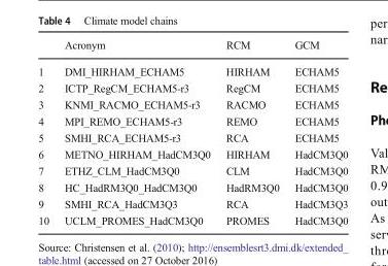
<table><thead><tr><td></td><td>Acronym</td><td>RCM</td><td>GCM</td></tr></thead><tbody><tr><td>1</td><td>DMI_HIRHAM_ECHAM5</td><td>HIRHAM</td><td>ECHAM5</td></tr><tr><td>2</td><td>ICTP_RegCM_ECHAM5-r3</td><td>RegCM</td><td>ECHAM5</td></tr><tr><td>3</td><td>KNMI_RACMO_ECHAM5-r3</td><td>RACMO</td><td>ECHAM5</td></tr><tr><td>4</td><td>MPI_REMO_ECHAM5-r3</td><td>REMO</td><td>ECHAM5</td></tr><tr><td>5</td><td>SMHI_RCA_ECHAM5-r3</td><td>RCA</td><td>ECHAM5</td></tr><tr><td>6</td><td>METNO_HIRHAM_HadCM3Q0</td><td>HIRHAM</td><td>HadCM3Q0</td></tr><tr><td>7</td><td>ETHZ_CLM_HadCM3Q0</td><td>CLM</td><td>HadCM3Q0</td></tr><tr><td>8</td><td>HC_HadRM3Q0_HadCM3Q0</td><td>HadRM3Q0</td><td>HadCM3Q0</td></tr><tr><td>9</td><td>SMHI_RCA_HadCM3Q3</td><td>RCA</td><td>HadCM3Q3</td></tr><tr><td>10</td><td>UCLM_PROMES_HadCM3Q0</td><td>PROMES</td><td>HadCM3Q0</td></tr></tbody></table>